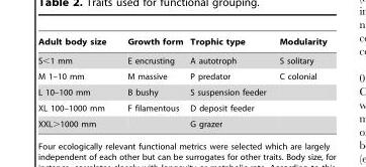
<table><thead><tr><td>Adult body size</td><td>Growth form</td><td>Trophic type</td><td>Modularity</td></tr></thead><tbody><tr><td>S&lt;1 mm</td><td>E encrusting</td><td>A autotroph</td><td>S solitary</td></tr><tr><td>M 1–10 mm</td><td>M massive</td><td>P predator</td><td>C colonial</td></tr><tr><td>L 10–100 mm</td><td>B bushy</td><td>S suspension feeder</td><td></td></tr><tr><td>XL 100–1000 mm</td><td>F filamentous</td><td>D deposit feeder</td><td></td></tr><tr><td>XXL&gt;1000 mm</td><td></td><td>G grazer</td><td></td></tr></tbody></table>